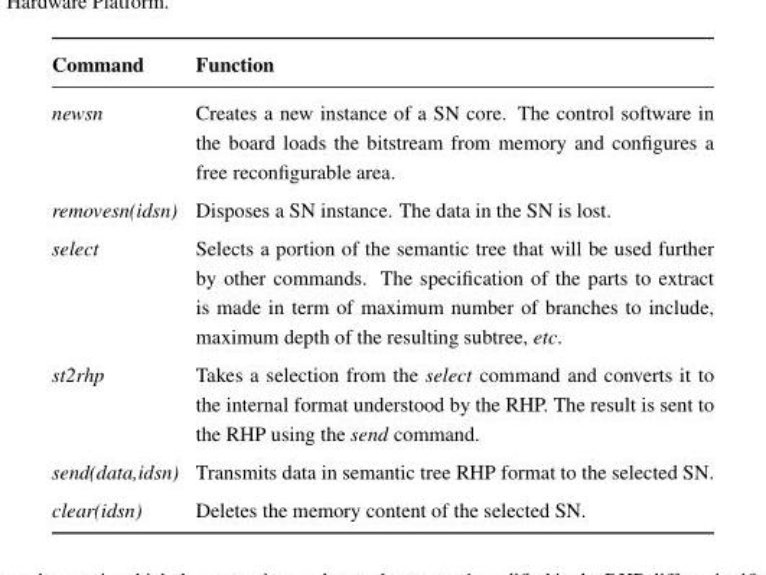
<table><thead><tr><td>Command</td><td>Function</td></tr></thead><tbody><tr><td>newsn</td><td>Creates a new instance of a SN core. The control software in the board loads the bitstream from memory and configures a free reconfigurable area.</td></tr><tr><td>removesn(idsn)</td><td>Disposes a SN instance. The data in the SN is lost.</td></tr><tr><td>select</td><td>Selects a portion of the semantic tree that will be used further by other commands. The specification of the parts to extract is made in term of maximum number of branches to include, maximum depth of the resulting subtree, etc.</td></tr><tr><td>st2rhp</td><td>Takes a selection from the select command and converts it to the internal format understood by the RHP. The result is sent to the RHP using the send command.</td></tr><tr><td>send(data,idsn)</td><td>Transmits data in semantic tree RHP format to the selected SN.</td></tr><tr><td>clear(idsn)</td><td>Deletes the memory content of the selected SN.</td></tr></tbody></table>